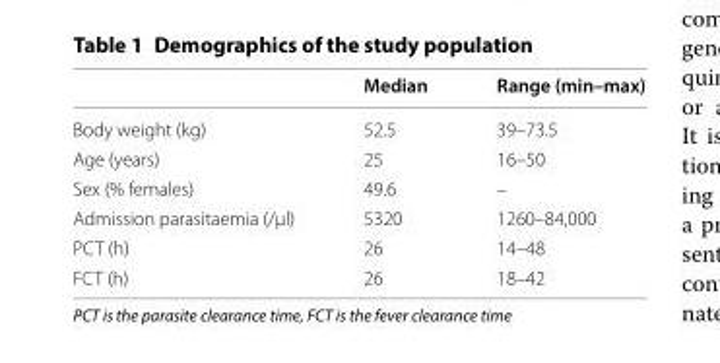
<table><thead><tr><td></td><td>Median</td><td>Range (min–max)</td></tr></thead><tbody><tr><td>Body weight (kg)</td><td>52.5</td><td>39–73.5</td></tr><tr><td>Age (years)</td><td>25</td><td>16–50</td></tr><tr><td>Sex (% females)</td><td>49.6</td><td>–</td></tr><tr><td>Admission parasitaemia (/µl)</td><td>5320</td><td>1260–84,000</td></tr><tr><td>PCT (h)</td><td>26</td><td>14–48</td></tr><tr><td>FCT (h)</td><td>26</td><td>18–42</td></tr></tbody></table>